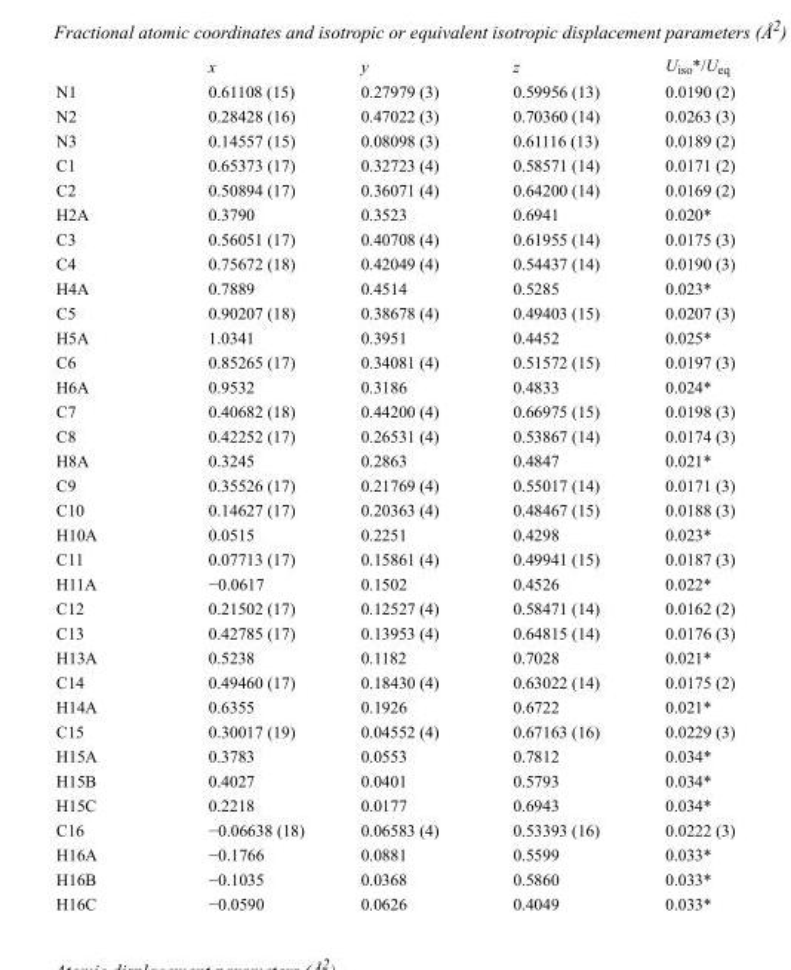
<table><thead><tr><td></td><td>x</td><td>y</td><td>z</td><td>U<sub>iso</sub>*/U<sub>eq</sub></td></tr></thead><tbody><tr><td>N1</td><td>0.61108 (15)</td><td>0.27979 (3)</td><td>0.59956 (13)</td><td>0.0190 (2)</td></tr><tr><td>N2</td><td>0.28428 (16)</td><td>0.47022 (3)</td><td>0.70360 (14)</td><td>0.0263 (3)</td></tr><tr><td>N3</td><td>0.14557 (15)</td><td>0.08098 (3)</td><td>0.61116 (13)</td><td>0.0189 (2)</td></tr><tr><td>C1</td><td>0.65373 (17)</td><td>0.32723 (4)</td><td>0.58571 (14)</td><td>0.0171 (2)</td></tr><tr><td>C2</td><td>0.50894 (17)</td><td>0.36071 (4)</td><td>0.64200 (14)</td><td>0.0169 (2)</td></tr><tr><td>H2A</td><td>0.3790</td><td>0.3523</td><td>0.6941</td><td>0.020*</td></tr><tr><td>C3</td><td>0.56051 (17)</td><td>0.40708 (4)</td><td>0.61955 (14)</td><td>0.0175 (3)</td></tr><tr><td>C4</td><td>0.75672 (18)</td><td>0.42049 (4)</td><td>0.54437 (14)</td><td>0.0190 (3)</td></tr><tr><td>H4A</td><td>0.7889</td><td>0.4514</td><td>0.5285</td><td>0.023*</td></tr><tr><td>C5</td><td>0.90207 (18)</td><td>0.38678 (4)</td><td>0.49403 (15)</td><td>0.0207 (3)</td></tr><tr><td>H5A</td><td>1.0341</td><td>0.3951</td><td>0.4452</td><td>0.025*</td></tr><tr><td>C6</td><td>0.85265 (17)</td><td>0.34081 (4)</td><td>0.51572 (15)</td><td>0.0197 (3)</td></tr><tr><td>H6A</td><td>0.9532</td><td>0.3186</td><td>0.4833</td><td>0.024*</td></tr><tr><td>C7</td><td>0.40682 (18)</td><td>0.44200 (4)</td><td>0.66975 (15)</td><td>0.0198 (3)</td></tr><tr><td>C8</td><td>0.42252 (17)</td><td>0.26531 (4)</td><td>0.53867 (14)</td><td>0.0174 (3)</td></tr><tr><td>H8A</td><td>0.3245</td><td>0.2863</td><td>0.4847</td><td>0.021*</td></tr><tr><td>C9</td><td>0.35526 (17)</td><td>0.21769 (4)</td><td>0.55017 (14)</td><td>0.0171 (3)</td></tr><tr><td>C10</td><td>0.14627 (17)</td><td>0.20363 (4)</td><td>0.48467 (15)</td><td>0.0188 (3)</td></tr><tr><td>H10A</td><td>0.0515</td><td>0.2251</td><td>0.4298</td><td>0.023*</td></tr><tr><td>C11</td><td>0.07713 (17)</td><td>0.15861 (4)</td><td>0.49941 (15)</td><td>0.0187 (3)</td></tr><tr><td>H11A</td><td>−0.0617</td><td>0.1502</td><td>0.4526</td><td>0.022*</td></tr><tr><td>C12</td><td>0.21502 (17)</td><td>0.12527 (4)</td><td>0.58471 (14)</td><td>0.0162 (2)</td></tr><tr><td>C13</td><td>0.42785 (17)</td><td>0.13953 (4)</td><td>0.64815 (14)</td><td>0.0176 (3)</td></tr><tr><td>H13A</td><td>0.5238</td><td>0.1182</td><td>0.7028</td><td>0.021*</td></tr><tr><td>C14</td><td>0.49460 (17)</td><td>0.18430 (4)</td><td>0.63022 (14)</td><td>0.0175 (2)</td></tr><tr><td>H14A</td><td>0.6355</td><td>0.1926</td><td>0.6722</td><td>0.021*</td></tr><tr><td>C15</td><td>0.30017 (19)</td><td>0.04552 (4)</td><td>0.67163 (16)</td><td>0.0229 (3)</td></tr><tr><td>H15A</td><td>0.3783</td><td>0.0553</td><td>0.7812</td><td>0.034*</td></tr><tr><td>H15B</td><td>0.4027</td><td>0.0401</td><td>0.5793</td><td>0.034*</td></tr><tr><td>H15C</td><td>0.2218</td><td>0.0177</td><td>0.6943</td><td>0.034*</td></tr><tr><td>C16</td><td>−0.06638 (18)</td><td>0.06583 (4)</td><td>0.53393 (16)</td><td>0.0222 (3)</td></tr><tr><td>H16A</td><td>−0.1766</td><td>0.0881</td><td>0.5599</td><td>0.033*</td></tr><tr><td>H16B</td><td>−0.1035</td><td>0.0368</td><td>0.5860</td><td>0.033*</td></tr><tr><td>H16C</td><td>−0.0590</td><td>0.0626</td><td>0.4049</td><td>0.033*</td></tr></tbody></table>